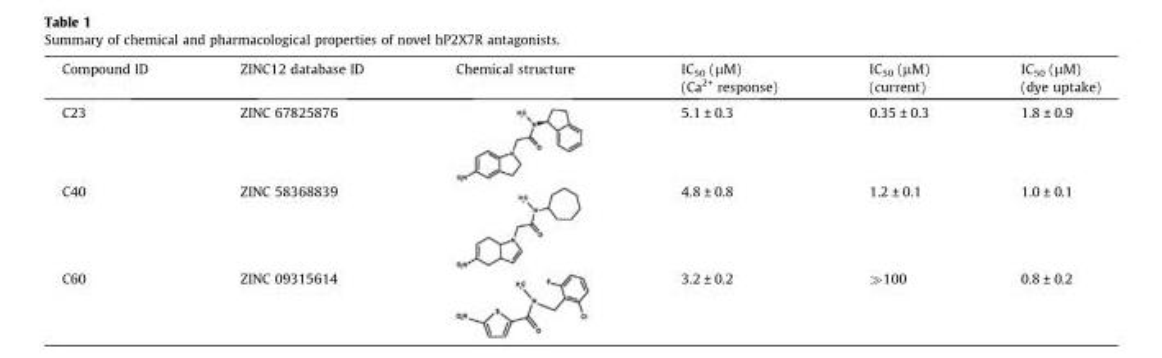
<table><thead><tr><td>Compound ID</td><td>ZINC12 database ID</td><td>Chemical structure</td><td>IC<sub>50</sub> (μM) (Ca<sup>2+</sup> response)</td><td>IC<sub>50</sub> (μM) (current)</td><td>IC<sub>50</sub> (μM) (dye uptake)</td></tr></thead><tbody><tr><td>C23</td><td>ZINC 67825876</td><td></td><td>5.1 ± 0.3</td><td>0.35 ± 0.3</td><td>1.8 ± 0.9</td></tr><tr><td>C40</td><td>ZINC 58368839</td><td></td><td>4.8 ± 0.8</td><td>1.2 ± 0.1</td><td>1.0 ± 0.1</td></tr><tr><td>C60</td><td>ZINC 09315614</td><td></td><td>3.2 ± 0.2</td><td>≫100</td><td>0.8 ± 0.2</td></tr></tbody></table>